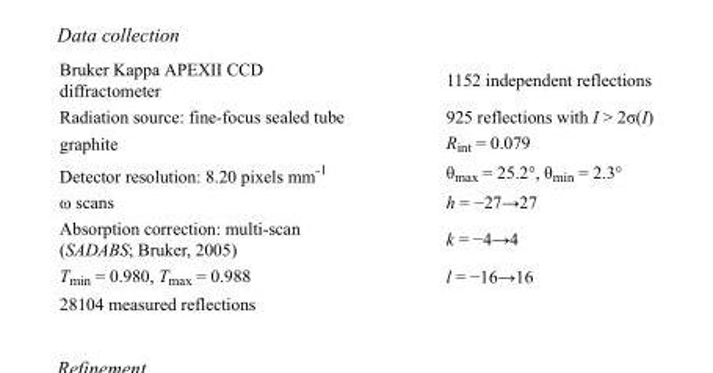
<table><tbody><tr><td>Bruker Kappa APEXII CCD diffractometer</td><td>1152 independent reflections</td></tr><tr><td>Radiation source: fine-focus sealed tube</td><td>925 reflections with I &gt; 2σ(I)</td></tr><tr><td>graphite</td><td>R<sub>int</sub> = 0.079</td></tr><tr><td>Detector resolution: 8.20 pixels mm<sup>-1</sup></td><td>θ<sub>max</sub> = 25.2°, θ<sub>min</sub> = 2.3°</td></tr><tr><td>ω scans</td><td>h = −27→27</td></tr><tr><td>Absorption correction: multi-scan (SADABS; Bruker, 2005)</td><td>k = −4→4</td></tr><tr><td>T<sub>min</sub> = 0.980, T<sub>max</sub> = 0.988</td><td>l = −16→16</td></tr><tr><td>28104 measured reflections</td><td></td></tr></tbody></table>